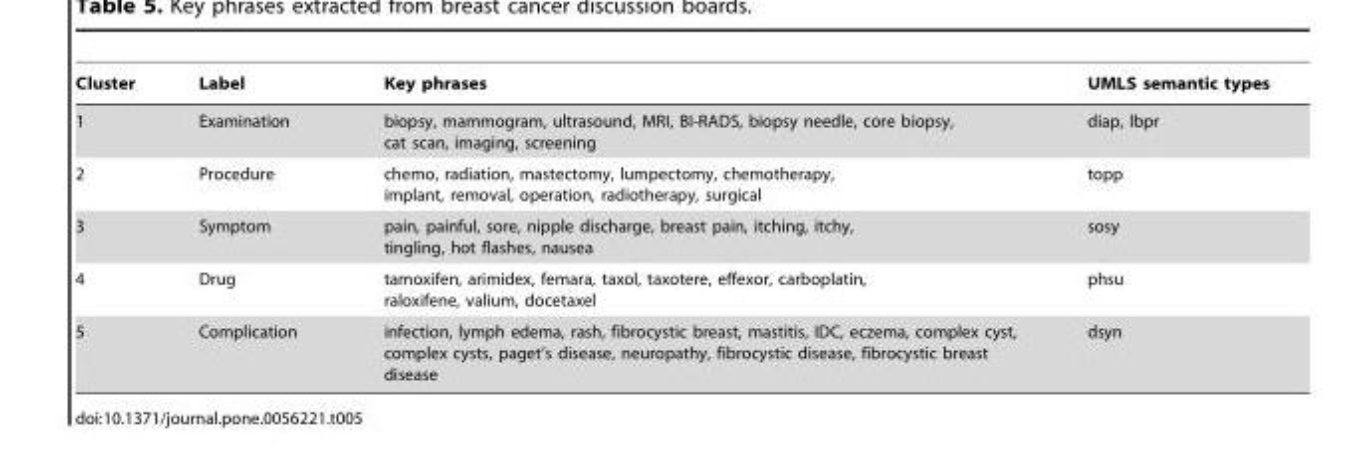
<table><thead><tr><td>Cluster</td><td>Label</td><td>Key phrases</td><td>UMLS semantic types</td></tr></thead><tbody><tr><td>1</td><td>Examination</td><td>biopsy, mammogram, ultrasound, MRI, BI-RADS, biopsy needle, core biopsy, cat scan, imaging, screening</td><td>diap, lbpr</td></tr><tr><td>2</td><td>Procedure</td><td>chemo, radiation, mastectomy, lumpectomy, chemotherapy, implant, removal, operation, radiotherapy, surgical</td><td>topp</td></tr><tr><td>3</td><td>Symptom</td><td>pain, painful, sore, nipple discharge, breast pain, itching, itchy, tingling, hot flashes, nausea</td><td>sosy</td></tr><tr><td>4</td><td>Drug</td><td>tamoxifen, arimidex, femara, taxol, taxotere, effexor, carboplatin, raloxifene, valium, docetaxel</td><td>phsu</td></tr><tr><td>5</td><td>Complication</td><td>infection, lymph edema, rash, fibrocystic breast, mastitis, IDC, eczema, complex cyst, complex cysts, paget’s disease, neuropathy, fibrocystic disease, fibrocystic breast disease</td><td>dsyn</td></tr></tbody></table>